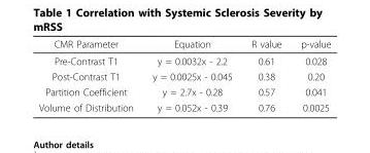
<table><thead><tr><td>CMR Parameter</td><td>Equation</td><td>R value</td><td>p-value</td></tr></thead><tbody><tr><td>Pre-Contrast T1</td><td>y = 0.0032x - 2.2</td><td>0.61</td><td>0.028</td></tr><tr><td>Post-Contrast T1</td><td>y = 0.0025x - 0.045</td><td>0.38</td><td>0.20</td></tr><tr><td>Partition Coefficient</td><td>y = 2.7x - 0.28</td><td>0.57</td><td>0.041</td></tr><tr><td>Volume of Distribution</td><td>y = 0.052x - 0.39</td><td>0.76</td><td>0.0025</td></tr></tbody></table>